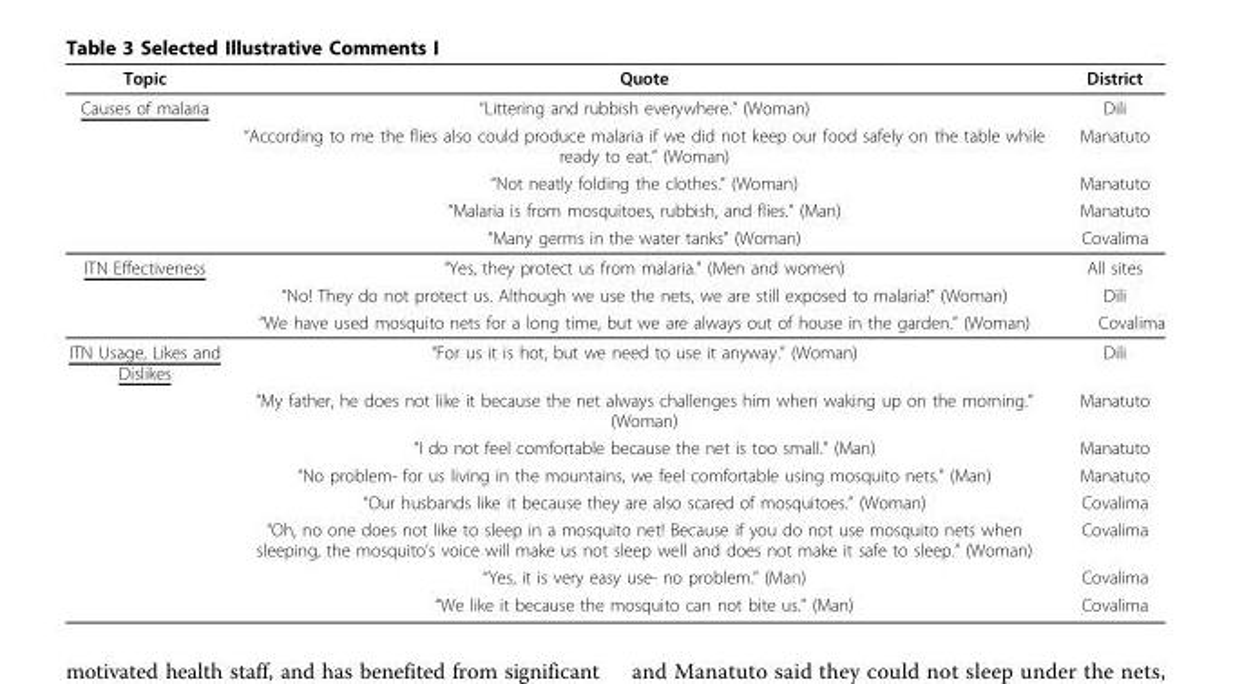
<table><thead><tr><td>Topic</td><td>Quote</td><td>District</td></tr></thead><tbody><tr><td rowspan="5">Causes of malaria</td><td>“Littering and rubbish everywhere.” (Woman)</td><td>Dili</td></tr><tr><td>“According to me the flies also could produce malaria if we did not keep our food safely on the table while ready to eat.” (Woman)</td><td>Manatuto</td></tr><tr><td>“Not neatly folding the clothes.” (Woman)</td><td>Manatuto</td></tr><tr><td>“Malaria is from mosquitoes, rubbish, and flies.” (Man)</td><td>Manatuto</td></tr><tr><td>“Many germs in the water tanks” (Woman)</td><td>Covalima</td></tr><tr><td rowspan="3">ITN Effectiveness</td><td>“Yes, they protect us from malaria.” (Men and women)</td><td>All sites</td></tr><tr><td>“No! They do not protect us. Although we use the nets, we are still exposed to malaria!” (Woman)</td><td>Dili</td></tr><tr><td>“We have used mosquito nets for a long time, but we are always out of house in the garden.” (Woman)</td><td>Covalima</td></tr><tr><td rowspan="8">ITN Usage, Likes and Dislikes</td><td>“For us it is hot, but we need to use it anyway.” (Woman)</td><td>Dili</td></tr><tr><td>“My father, he does not like it because the net always challenges him when waking up on the morning.” (Woman)</td><td>Manatuto</td></tr><tr><td>“I do not feel comfortable because the net is too small.” (Man)</td><td>Manatuto</td></tr><tr><td>“No problem- for us living in the mountains, we feel comfortable using mosquito nets.” (Man)</td><td>Manatuto</td></tr><tr><td>“Our husbands like it because they are also scared of mosquitoes.” (Woman)</td><td>Covalima</td></tr><tr><td>“Oh, no one does not like to sleep in a mosquito net! Because if you do not use mosquito nets when sleeping, the mosquito’s voice will make us not sleep well and does not make it safe to sleep.” (Woman)</td><td>Covalima</td></tr><tr><td>“Yes, it is very easy use- no problem.” (Man)</td><td>Covalima</td></tr><tr><td>“We like it because the mosquito can not bite us.” (Man)</td><td>Covalima</td></tr></tbody></table>